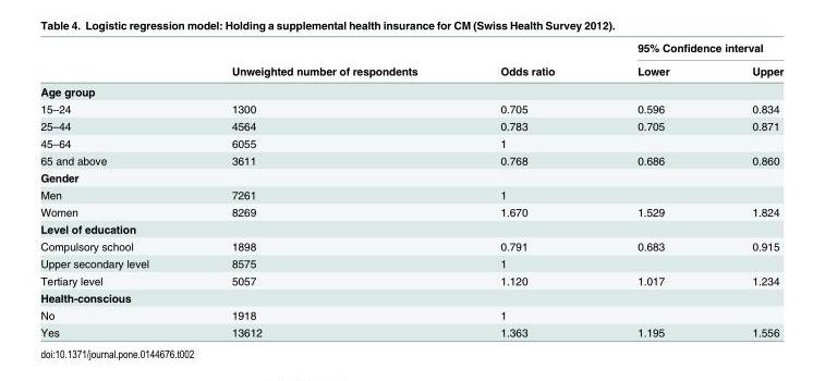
<table><thead><tr><td rowspan="2"></td><td rowspan="2">Unweighted number of respondents</td><td rowspan="2">Odds ratio</td><td colspan="2">95% Confidence interval</td></tr><tr><td>Lower</td><td>Upper</td></tr></thead><tbody><tr><td colspan="5">Age group</td></tr><tr><td>15–24</td><td>1300</td><td>0.705</td><td>0.596</td><td>0.834</td></tr><tr><td>25–44</td><td>4564</td><td>0.783</td><td>0.705</td><td>0.871</td></tr><tr><td>45–64</td><td>6055</td><td>1</td><td></td><td></td></tr><tr><td>65 and above</td><td>3611</td><td>0.768</td><td>0.686</td><td>0.860</td></tr><tr><td colspan="5">Gender</td></tr><tr><td>Men</td><td>7261</td><td>1</td><td></td><td></td></tr><tr><td>Women</td><td>8269</td><td>1.670</td><td>1.529</td><td>1.824</td></tr><tr><td colspan="5">Level of education</td></tr><tr><td>Compulsory school</td><td>1898</td><td>0.791</td><td>0.683</td><td>0.915</td></tr><tr><td>Upper secondary level</td><td>8575</td><td>1</td><td></td><td></td></tr><tr><td>Tertiary level</td><td>5057</td><td>1.120</td><td>1.017</td><td>1.234</td></tr><tr><td colspan="5">Health-conscious</td></tr><tr><td>No</td><td>1918</td><td>1</td><td></td><td></td></tr><tr><td>Yes</td><td>13612</td><td>1.363</td><td>1.195</td><td>1.556</td></tr></tbody></table>